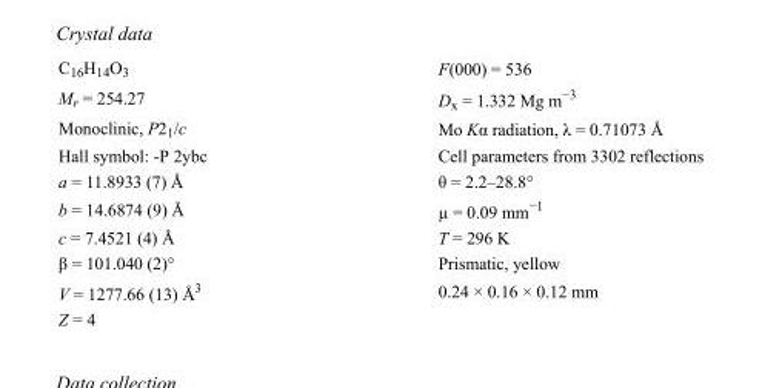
<table><tbody><tr><td>C<sub>16</sub>H<sub>14</sub>O<sub>3</sub></td><td>F(000) = 536</td></tr><tr><td>M<sub>r</sub> = 254.27</td><td>D<sub>x</sub> = 1.332 Mg m<sup>−3</sup></td></tr><tr><td>Monoclinic, P2<sub>1</sub>/c</td><td>Mo Kα radiation, λ = 0.71073 Å</td></tr><tr><td>Hall symbol: -P 2ybc</td><td>Cell parameters from 3302 reflections</td></tr><tr><td>a = 11.8933 (7) Å</td><td>θ = 2.2–28.8°</td></tr><tr><td>b = 14.6874 (9) Å</td><td>µ = 0.09 mm<sup>−1</sup></td></tr><tr><td>c = 7.4521 (4) Å</td><td>T = 296 K</td></tr><tr><td>β = 101.040 (2)°</td><td>Prismatic, yellow</td></tr><tr><td>V = 1277.66 (13) Å<sup>3</sup></td><td>0.24 × 0.16 × 0.12 mm</td></tr><tr><td>Z = 4</td><td></td></tr></tbody></table>